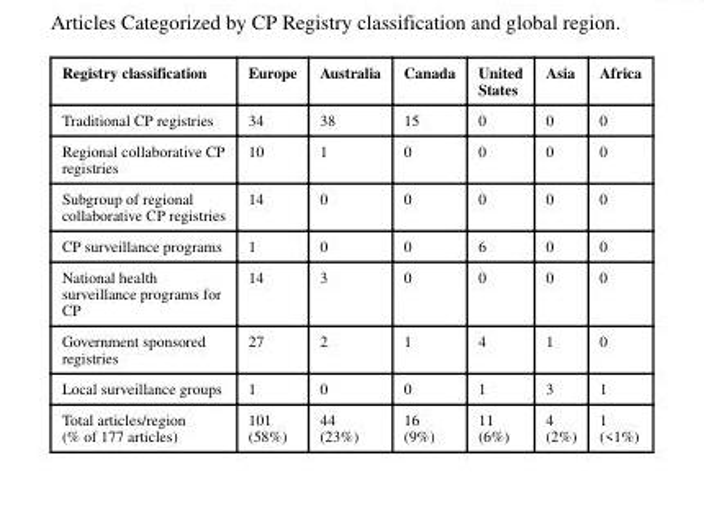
<table><thead><tr><td>Registry classification</td><td>Europe</td><td>Australia</td><td>Canada</td><td>United States</td><td>Asia</td><td>Africa</td></tr></thead><tbody><tr><td>Traditional CP registries</td><td>34</td><td>38</td><td>15</td><td>0</td><td>0</td><td>0</td></tr><tr><td>Regional collaborative CP registries</td><td>10</td><td>1</td><td>0</td><td>0</td><td>0</td><td>0</td></tr><tr><td>Subgroup of regional collaborative CP registries</td><td>14</td><td>0</td><td>0</td><td>0</td><td>0</td><td>0</td></tr><tr><td>CP surveillance programs</td><td>1</td><td>0</td><td>0</td><td>6</td><td>0</td><td>0</td></tr><tr><td>National health surveillance programs for CP</td><td>14</td><td>3</td><td>0</td><td>0</td><td>0</td><td>0</td></tr><tr><td>Government sponsored registries</td><td>27</td><td>2</td><td>1</td><td>4</td><td>1</td><td>0</td></tr><tr><td>Local surveillance groups</td><td>1</td><td>0</td><td>0</td><td>1</td><td>3</td><td>1</td></tr><tr><td>Total articles/region (% of 177 articles)</td><td>101 (58%)</td><td>44 (23%)</td><td>16 (9%)</td><td>11 (6%)</td><td>4 (2%)</td><td>1 (&lt;1%)</td></tr></tbody></table>